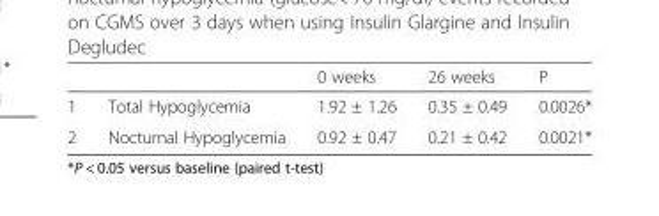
<table><thead><tr><td></td><td></td><td>0 weeks</td><td>26 weeks</td><td>P</td></tr></thead><tbody><tr><td>1</td><td>Total Hypoglycemia</td><td>1.92 ± 1.26</td><td>0.35 ± 0.49</td><td>0.0026*</td></tr><tr><td>2</td><td>Nocturnal Hypoglycemia</td><td>0.92 ± 0.47</td><td>0.21 ± 0.42</td><td>0.0021*</td></tr></tbody></table>